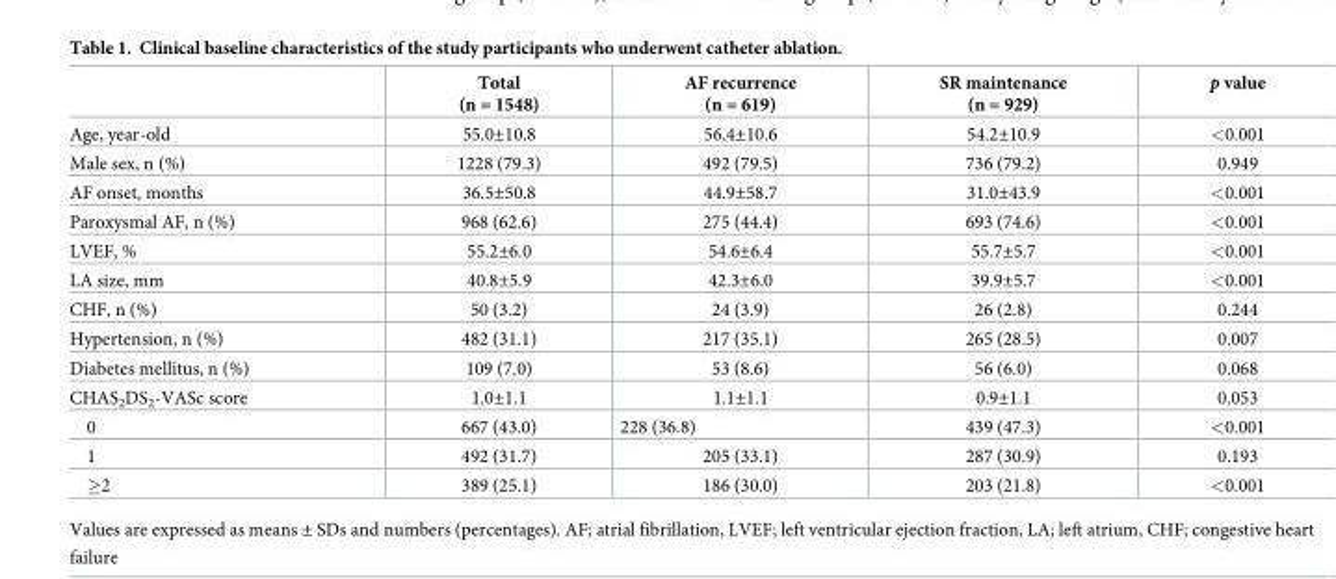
<table><thead><tr><td></td><td>Total (n = 1548)</td><td>AF recurrence (n = 619)</td><td>SR maintenance (n = 929)</td><td>p value</td></tr></thead><tbody><tr><td>Age, year-old</td><td>55.0±10.8</td><td>56.4±10.6</td><td>54.2±10.9</td><td>&lt;0.001</td></tr><tr><td>Male sex, n (%)</td><td>1228 (79.3)</td><td>492 (79.5)</td><td>736 (79.2)</td><td>0.949</td></tr><tr><td>AF onset, months</td><td>36.5±50.8</td><td>44.9±58.7</td><td>31.0±43.9</td><td>&lt;0.001</td></tr><tr><td>Paroxysmal AF, n (%)</td><td>968 (62.6)</td><td>275 (44.4)</td><td>693 (74.6)</td><td>&lt;0.001</td></tr><tr><td>LVEF, %</td><td>55.2±6.0</td><td>54.6±6.4</td><td>55.7±5.7</td><td>&lt;0.001</td></tr><tr><td>LA size, mm</td><td>40.8±5.9</td><td>42.3±6.0</td><td>39.9±5.7</td><td>&lt;0.001</td></tr><tr><td>CHF, n (%)</td><td>50 (3.2)</td><td>24 (3.9)</td><td>26 (2.8)</td><td>0.244</td></tr><tr><td>Hypertension, n (%)</td><td>482 (31.1)</td><td>217 (35.1)</td><td>265 (28.5)</td><td>0.007</td></tr><tr><td>Diabetes mellitus, n (%)</td><td>109 (7.0)</td><td>53 (8.6)</td><td>56 (6.0)</td><td>0.068</td></tr><tr><td>CHAS<sub>2</sub>DS<sub>2</sub>-VASc score</td><td>1.0±1.1</td><td>1.1±1.1</td><td>0.9±1.1</td><td>0.053</td></tr><tr><td>0</td><td>667 (43.0)</td><td>228 (36.8)</td><td>439 (47.3)</td><td>&lt;0.001</td></tr><tr><td>1</td><td>492 (31.7)</td><td>205 (33.1)</td><td>287 (30.9)</td><td>0.193</td></tr><tr><td>≥2</td><td>389 (25.1)</td><td>186 (30.0)</td><td>203 (21.8)</td><td>&lt;0.001</td></tr></tbody></table>